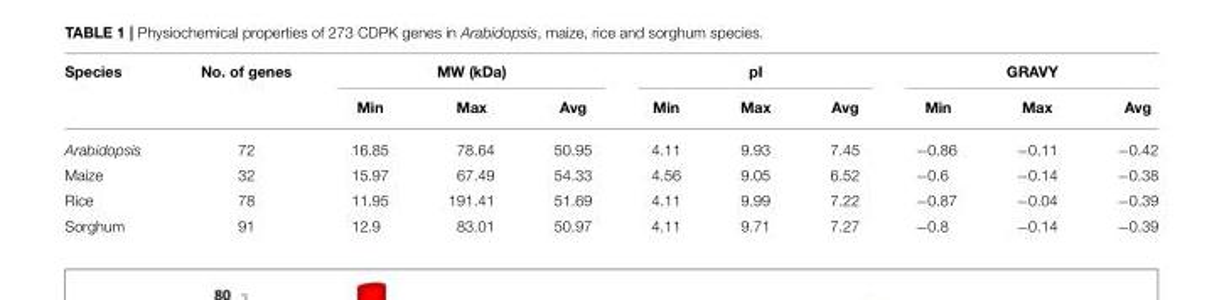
<table><thead><tr><td rowspan="2">Species</td><td rowspan="2">No. of genes</td><td colspan="3">MW (kDa)</td><td colspan="3">pI</td><td colspan="3">GRAVY</td></tr><tr><td>Min</td><td>Max</td><td>Avg</td><td>Min</td><td>Max</td><td>Avg</td><td>Min</td><td>Max</td><td>Avg</td></tr></thead><tbody><tr><td>Arabidopsis</td><td>72</td><td>16.85</td><td>78.64</td><td>50.95</td><td>4.11</td><td>9.93</td><td>7.45</td><td>−0.86</td><td>−0.11</td><td>−0.42</td></tr><tr><td>Maize</td><td>32</td><td>15.97</td><td>67.49</td><td>54.33</td><td>4.56</td><td>9.05</td><td>6.52</td><td>−0.6</td><td>−0.14</td><td>−0.38</td></tr><tr><td>Rice</td><td>78</td><td>11.95</td><td>191.41</td><td>51.69</td><td>4.11</td><td>9.99</td><td>7.22</td><td>−0.87</td><td>−0.04</td><td>−0.39</td></tr><tr><td>Sorghum</td><td>91</td><td>12.9</td><td>83.01</td><td>50.97</td><td>4.11</td><td>9.71</td><td>7.27</td><td>−0.8</td><td>−0.14</td><td>−0.39</td></tr></tbody></table>